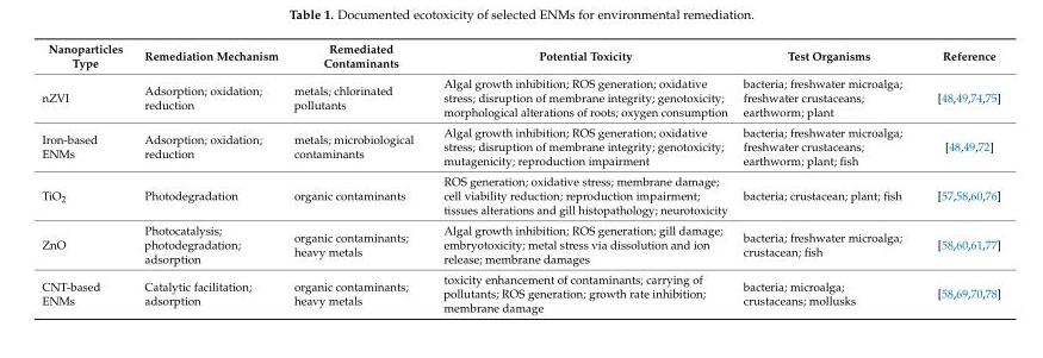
<table><thead><tr><td>Nanoparticles Type</td><td>Remediation Mechanism</td><td>Remediated Contaminants</td><td>Potential Toxicity</td><td>Test Organisms</td><td>Reference</td></tr></thead><tbody><tr><td>nZVI</td><td>Adsorption; oxidation; reduction</td><td>metals; chlorinated pollutants</td><td>Algal growth inhibition; ROS generation; oxidative stress; disruption of membrane integrity; genotoxicity; morphological alterations of roots; oxygen consumption</td><td>bacteria; freshwater microalga; freshwater crustaceans; earthworm; plant</td><td>[48,49,74,75]</td></tr><tr><td>Iron-based ENMs</td><td>Adsorption; oxidation; reduction</td><td>metals; microbiological contaminants</td><td>Algal growth inhibition; ROS generation; oxidative stress; disruption of membrane integrity; genotoxicity; mutagenicity; reproduction impairment</td><td>bacteria; freshwater microalga; freshwater crustaceans; earthworm; plant; fish</td><td>[48,49,72]</td></tr><tr><td>TiO<sub>2</sub></td><td>Photodegradation</td><td>organic contaminants</td><td>ROS generation; oxidative stress; membrane damage; cell viability reduction; reproduction impairment; tissues alterations and gill histopathology; neurotoxicity</td><td>bacteria; crustacean; plant; fish</td><td>[57,58,60,76]</td></tr><tr><td>ZnO</td><td>Photocatalysis; photodegradation; adsorption</td><td>organic contaminants; heavy metals</td><td>Algal growth inhibition; ROS generation; gill damage; embryotoxicity; metal stress via dissolution and ion release; membrane damages</td><td>bacteria; freshwater microalga; crustacean; fish</td><td>[58,60,61,77]</td></tr><tr><td>CNT-based ENMs</td><td>Catalytic facilitation; adsorption</td><td>organic contaminants; heavy metals</td><td>toxicity enhancement of contaminants; carrying of pollutants; ROS generation; growth rate inhibition; membrane damage</td><td>bacteria; microalga; crustaceans; mollusks</td><td>[58,69,70,78]</td></tr></tbody></table>